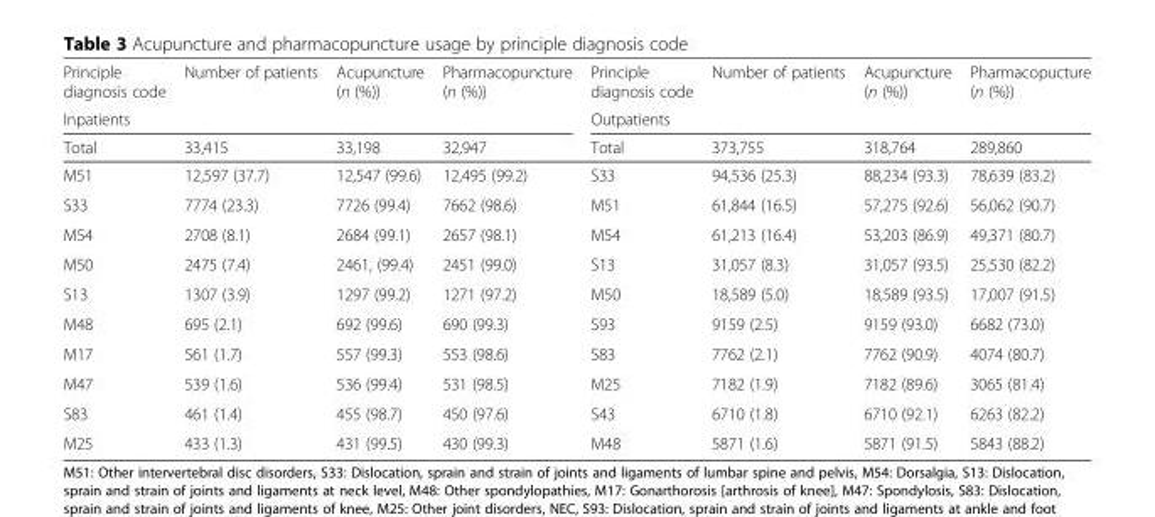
<table><thead><tr><td>Principle diagnosis code</td><td>Number of patients</td><td>Acupuncture (n (%))</td><td>Pharmacopuncture (n (%))</td><td>Principle diagnosis code</td><td>Number of patients</td><td>Acupuncture (n (%))</td><td>Pharmacopucture (n (%))</td></tr><tr><td colspan="4">Inpatients</td><td colspan="4">Outpatients</td></tr><tr><td>Total</td><td>33,415</td><td>33,198</td><td>32,947</td><td>Total</td><td>373,755</td><td>318,764</td><td>289,860</td></tr></thead><tbody><tr><td>M51</td><td>12,597 (37.7)</td><td>12,547 (99.6)</td><td>12,495 (99.2)</td><td>S33</td><td>94,536 (25.3)</td><td>88,234 (93.3)</td><td>78,639 (83.2)</td></tr><tr><td>S33</td><td>7774 (23.3)</td><td>7726 (99.4)</td><td>7662 (98.6)</td><td>M51</td><td>61,844 (16.5)</td><td>57,275 (92.6)</td><td>56,062 (90.7)</td></tr><tr><td>M54</td><td>2708 (8.1)</td><td>2684 (99.1)</td><td>2657 (98.1)</td><td>M54</td><td>61,213 (16.4)</td><td>53,203 (86.9)</td><td>49,371 (80.7)</td></tr><tr><td>M50</td><td>2475 (7.4)</td><td>2461, (99.4)</td><td>2451 (99.0)</td><td>S13</td><td>31,057 (8.3)</td><td>31,057 (93.5)</td><td>25,530 (82.2)</td></tr><tr><td>S13</td><td>1307 (3.9)</td><td>1297 (99.2)</td><td>1271 (97.2)</td><td>M50</td><td>18,589 (5.0)</td><td>18,589 (93.5)</td><td>17,007 (91.5)</td></tr><tr><td>M48</td><td>695 (2.1)</td><td>692 (99.6)</td><td>690 (99.3)</td><td>S93</td><td>9159 (2.5)</td><td>9159 (93.0)</td><td>6682 (73.0)</td></tr><tr><td>M17</td><td>561 (1.7)</td><td>557 (99.3)</td><td>553 (98.6)</td><td>S83</td><td>7762 (2.1)</td><td>7762 (90.9)</td><td>4074 (80.7)</td></tr><tr><td>M47</td><td>539 (1.6)</td><td>536 (99.4)</td><td>531 (98.5)</td><td>M25</td><td>7182 (1.9)</td><td>7182 (89.6)</td><td>3065 (81.4)</td></tr><tr><td>S83</td><td>461 (1.4)</td><td>455 (98.7)</td><td>450 (97.6)</td><td>S43</td><td>6710 (1.8)</td><td>6710 (92.1)</td><td>6263 (82.2)</td></tr><tr><td>M25</td><td>433 (1.3)</td><td>431 (99.5)</td><td>430 (99.3)</td><td>M48</td><td>5871 (1.6)</td><td>5871 (91.5)</td><td>5843 (88.2)</td></tr></tbody></table>